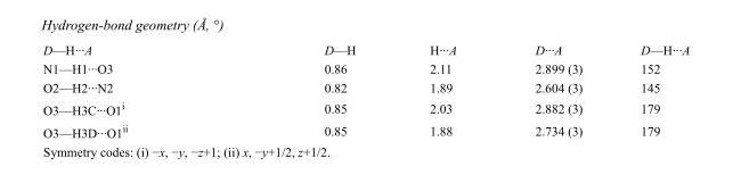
<table><tbody><tr><td>D—H···A</td><td>D—H</td><td>H···A</td><td>D···A</td><td>D—H···A</td></tr><tr><td>N1—H1···O3</td><td>0.86</td><td>2.11</td><td>2.899 (3)</td><td>152</td></tr><tr><td>O2—H2···N2</td><td>0.82</td><td>1.89</td><td>2.604 (3)</td><td>145</td></tr><tr><td>O3—H3C···O1<sup>i</sup></td><td>0.85</td><td>2.03</td><td>2.882 (3)</td><td>179</td></tr><tr><td>O3—H3D···O1<sup>ii</sup></td><td>0.85</td><td>1.88</td><td>2.734 (3)</td><td>179</td></tr></tbody></table>